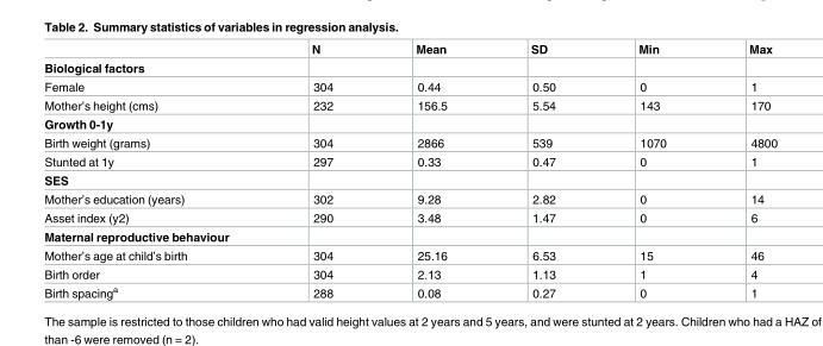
<table><thead><tr><td></td><td>N</td><td>Mean</td><td>SD</td><td>Min</td><td>Max</td></tr></thead><tbody><tr><td colspan="6">Biological factors</td></tr><tr><td>Female</td><td>304</td><td>0.44</td><td>0.50</td><td>0</td><td>1</td></tr><tr><td>Mother’s height (cms)</td><td>232</td><td>156.5</td><td>5.54</td><td>143</td><td>170</td></tr><tr><td colspan="6">Growth 0-1y</td></tr><tr><td>Birth weight (grams)</td><td>304</td><td>2866</td><td>539</td><td>1070</td><td>4800</td></tr><tr><td>Stunted at 1y</td><td>297</td><td>0.33</td><td>0.47</td><td>0</td><td>1</td></tr><tr><td colspan="6">SES</td></tr><tr><td>Mother’s education (years)</td><td>302</td><td>9.28</td><td>2.82</td><td>0</td><td>14</td></tr><tr><td>Asset index (y2)</td><td>290</td><td>3.48</td><td>1.47</td><td>0</td><td>6</td></tr><tr><td colspan="6">Maternal reproductive behaviour</td></tr><tr><td>Mother’s age at child’s birth</td><td>304</td><td>25.16</td><td>6.53</td><td>15</td><td>46</td></tr><tr><td>Birth order</td><td>304</td><td>2.13</td><td>1.13</td><td>1</td><td>4</td></tr><tr><td>Birth spacing<sup>a</sup></td><td>288</td><td>0.08</td><td>0.27</td><td>0</td><td>1</td></tr></tbody></table>